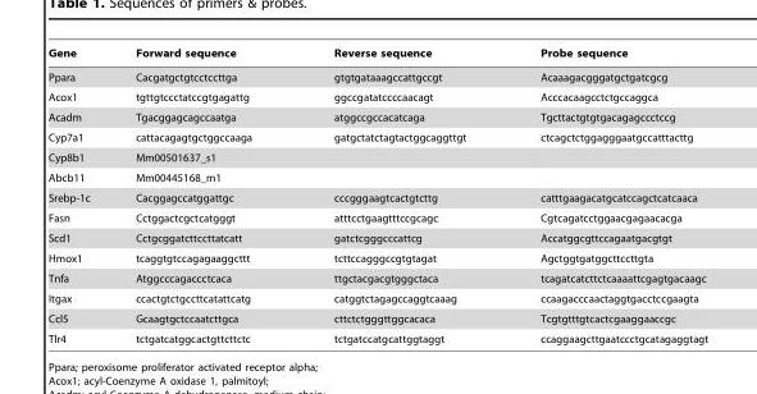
<table><thead><tr><td>Gene</td><td>Forward sequence</td><td>Reverse sequence</td><td>Probe sequence</td></tr></thead><tbody><tr><td>Ppara</td><td>Cacgatgctgtcctccttga</td><td>gtgtgataaagccattgccgt</td><td>Acaaagacgggatgctgatcgcg</td></tr><tr><td>Acox1</td><td>tgttgtccctatccgtgagattg</td><td>ggccgatatccccaacagt</td><td>Acccacaagcctctgccaggca</td></tr><tr><td>Acadm</td><td>Tgacggagcagccaatga</td><td>atggccgccacatcaga</td><td>Tgcttactgtgtgacagagccctccg</td></tr><tr><td>Cyp7a1</td><td>cattacagagtgctggccaaga</td><td>gatgctatctagtactggcaggttgt</td><td>ctcagctctggagggaatgccatttacttg</td></tr><tr><td>Cyp8b1</td><td>Mm00501637_s1</td><td></td><td></td></tr><tr><td>Abcb11</td><td>Mm00445168_m1</td><td></td><td></td></tr><tr><td>Srebp-1c</td><td>Cacggagccatggattgc</td><td>cccgggaagtcactgtcttg</td><td>catttgaagacatgcatccagctcatcaaca</td></tr><tr><td>Fasn</td><td>Cctggactcgctcatgggt</td><td>atttcctgaagtttccgcagc</td><td>Cgtcagatcctggaacgagaacacga</td></tr><tr><td>Scd1</td><td>Cctgcggatcttccttatcatt</td><td>gatctcgggcccattcg</td><td>Accatggcgttccagaatgacgtgt</td></tr><tr><td>Hmox1</td><td>tcaggtgtccagagaaggcttt</td><td>tcttccagggccgtgtagat</td><td>Agctggtgatggcttccttgta</td></tr><tr><td>Tnfa</td><td>Atggcccagaccctcaca</td><td>ttgctacgacgtgggctaca</td><td>tcagatcatcttctcaaaattcgagtgacaagc</td></tr><tr><td>Itgax</td><td>ccactgtctgccttcatattcatg</td><td>catggtctagagccaggtcaaag</td><td>ccaagacccaactaggtgacctccgaagta</td></tr><tr><td>Ccl5</td><td>Gcaagtgctccaatcttgca</td><td>cttctctgggttggcacaca</td><td>Tcgtgtttgtcactcgaaggaaccgc</td></tr><tr><td>Tlr4</td><td>tctgatcatggcactgttcttctc</td><td>tctgatccatgcattggtaggt</td><td>ccaggaagcttgaatccctgcatagaggtagt</td></tr></tbody></table>